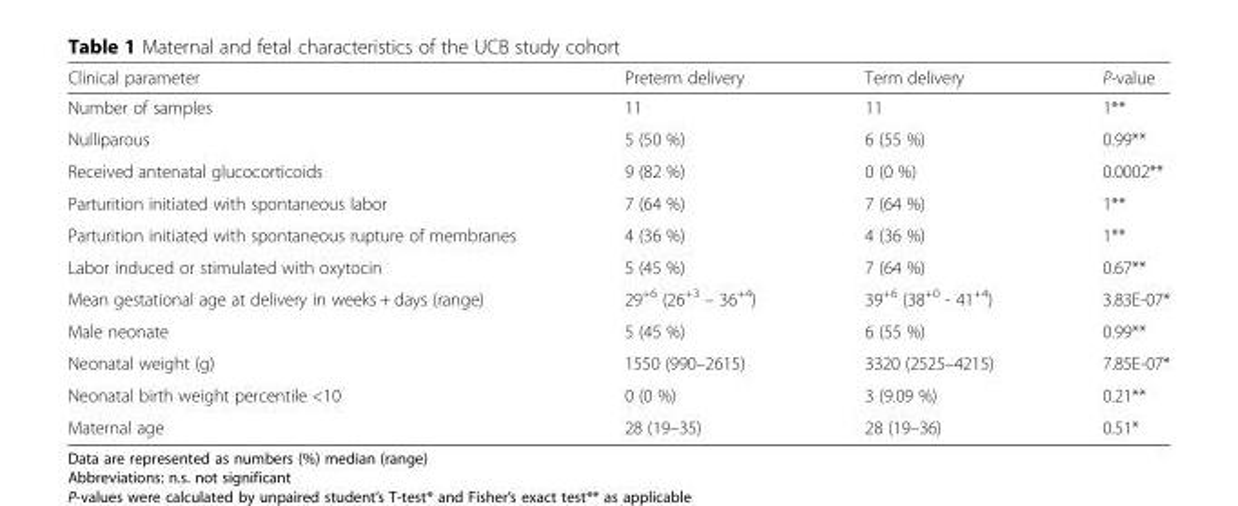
<table><thead><tr><td>Clinical parameter</td><td>Preterm delivery</td><td>Term delivery</td><td>P-value</td></tr></thead><tbody><tr><td>Number of samples</td><td>11</td><td>11</td><td>1**</td></tr><tr><td>Nulliparous</td><td>5 (50 %)</td><td>6 (55 %)</td><td>0.99**</td></tr><tr><td>Received antenatal glucocorticoids</td><td>9 (82 %)</td><td>0 (0 %)</td><td>0.0002**</td></tr><tr><td>Parturition initiated with spontaneous labor</td><td>7 (64 %)</td><td>7 (64 %)</td><td>1**</td></tr><tr><td>Parturition initiated with spontaneous rupture of membranes</td><td>4 (36 %)</td><td>4 (36 %)</td><td>1**</td></tr><tr><td>Labor induced or stimulated with oxytocin</td><td>5 (45 %)</td><td>7 (64 %)</td><td>0.67**</td></tr><tr><td>Mean gestational age at delivery in weeks + days (range)</td><td>29<sup>+6</sup> (26<sup>+3</sup> – 36<sup>+4</sup>)</td><td>39<sup>+6</sup> (38<sup>+0</sup> - 41<sup>+4</sup>)</td><td>3.83E-07*</td></tr><tr><td>Male neonate</td><td>5 (45 %)</td><td>6 (55 %)</td><td>0.99**</td></tr><tr><td>Neonatal weight (g)</td><td>1550 (990–2615)</td><td>3320 (2525–4215)</td><td>7.85E-07*</td></tr><tr><td>Neonatal birth weight percentile &lt;10</td><td>0 (0 %)</td><td>3 (9.09 %)</td><td>0.21**</td></tr><tr><td>Maternal age</td><td>28 (19–35)</td><td>28 (19–36)</td><td>0.51*</td></tr></tbody></table>